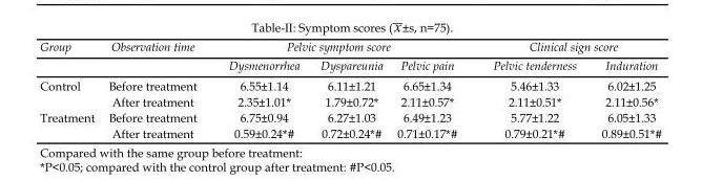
<table><thead><tr><td rowspan="2">Group</td><td rowspan="2">Observation time</td><td colspan="3">Pelvic symptom score</td><td colspan="2">Clinical sign score</td></tr><tr><td>Dysmenorrhea</td><td>Dyspareunia</td><td>Pelvic pain</td><td>Pelvic tenderness</td><td>Induration</td></tr></thead><tbody><tr><td rowspan="2">Control</td><td>Before treatment</td><td>6.55±1.14</td><td>6.11±1.21</td><td>6.65±1.34</td><td>5.46±1.33</td><td>6.02±1.25</td></tr><tr><td>After treatment</td><td>2.35±1.01*</td><td>1.79±0.72*</td><td>2.11±0.57*</td><td>2.11±0.51*</td><td>2.11±0.56*</td></tr><tr><td rowspan="2">Treatment</td><td>Before treatment</td><td>6.75±0.94</td><td>6.27±1.03</td><td>6.49±1.23</td><td>5.77±1.22</td><td>6.05±1.33</td></tr><tr><td>After treatment</td><td>0.59±0.24*#</td><td>0.72±0.24*#</td><td>0.71±0.17*#</td><td>0.79±0.21*#</td><td>0.89±0.51*#</td></tr></tbody></table>